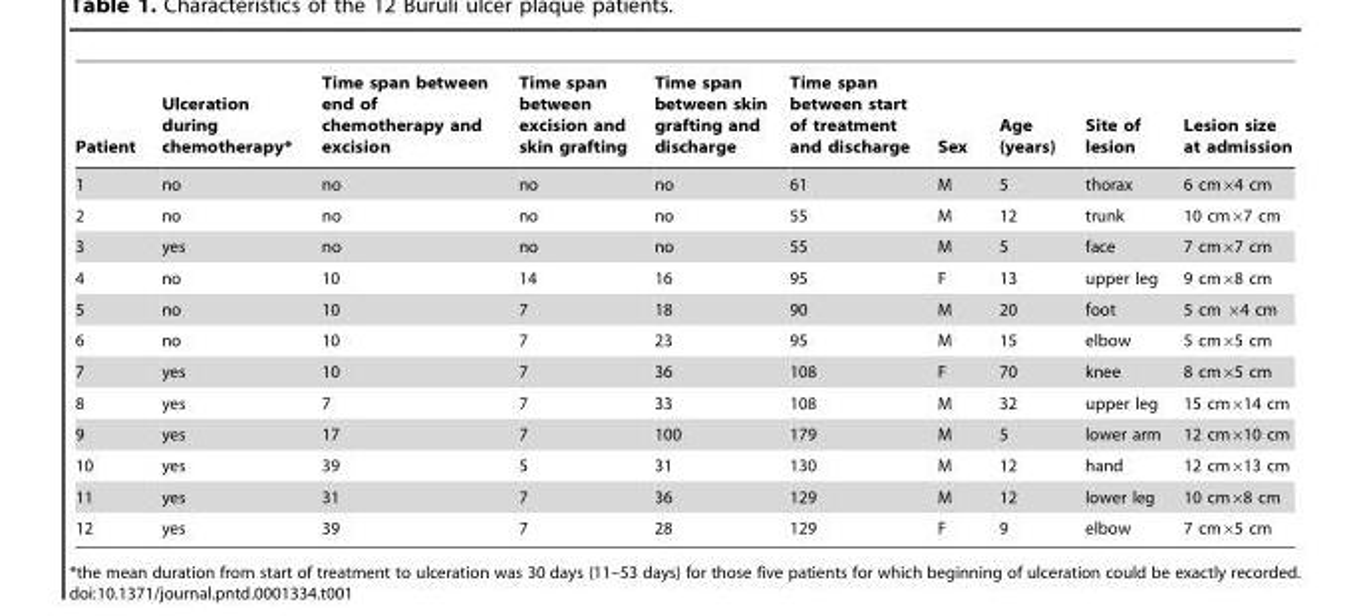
<table><thead><tr><td>Patient</td><td>Ulceration during chemotherapy*</td><td>Time span between end of chemotherapy and excision</td><td>Time span between excision and skin grafting</td><td>Time span between skin grafting and discharge</td><td>Time span between start of treatment and discharge</td><td>Sex</td><td>Age (years)</td><td>Site of lesion</td><td>Lesion size at admission</td></tr></thead><tbody><tr><td>1</td><td>no</td><td>no</td><td>no</td><td>no</td><td>61</td><td>M</td><td>5</td><td>thorax</td><td>6 cm×4 cm</td></tr><tr><td>2</td><td>no</td><td>no</td><td>no</td><td>no</td><td>55</td><td>M</td><td>12</td><td>trunk</td><td>10 cm×7 cm</td></tr><tr><td>3</td><td>yes</td><td>no</td><td>no</td><td>no</td><td>55</td><td>M</td><td>5</td><td>face</td><td>7 cm×7 cm</td></tr><tr><td>4</td><td>no</td><td>10</td><td>14</td><td>16</td><td>95</td><td>F</td><td>13</td><td>upper leg</td><td>9 cm×8 cm</td></tr><tr><td>5</td><td>no</td><td>10</td><td>7</td><td>18</td><td>90</td><td>M</td><td>20</td><td>foot</td><td>5 cm ×4 cm</td></tr><tr><td>6</td><td>no</td><td>10</td><td>7</td><td>23</td><td>95</td><td>M</td><td>15</td><td>elbow</td><td>5 cm×5 cm</td></tr><tr><td>7</td><td>yes</td><td>10</td><td>7</td><td>36</td><td>108</td><td>F</td><td>70</td><td>knee</td><td>8 cm×5 cm</td></tr><tr><td>8</td><td>yes</td><td>7</td><td>7</td><td>33</td><td>108</td><td>M</td><td>32</td><td>upper leg</td><td>15 cm×14 cm</td></tr><tr><td>9</td><td>yes</td><td>17</td><td>7</td><td>100</td><td>179</td><td>M</td><td>5</td><td>lower arm</td><td>12 cm×10 cm</td></tr><tr><td>10</td><td>yes</td><td>39</td><td>5</td><td>31</td><td>130</td><td>M</td><td>12</td><td>hand</td><td>12 cm×13 cm</td></tr><tr><td>11</td><td>yes</td><td>31</td><td>7</td><td>36</td><td>129</td><td>M</td><td>12</td><td>lower leg</td><td>10 cm×8 cm</td></tr><tr><td>12</td><td>yes</td><td>39</td><td>7</td><td>28</td><td>129</td><td>F</td><td>9</td><td>elbow</td><td>7 cm×5 cm</td></tr></tbody></table>